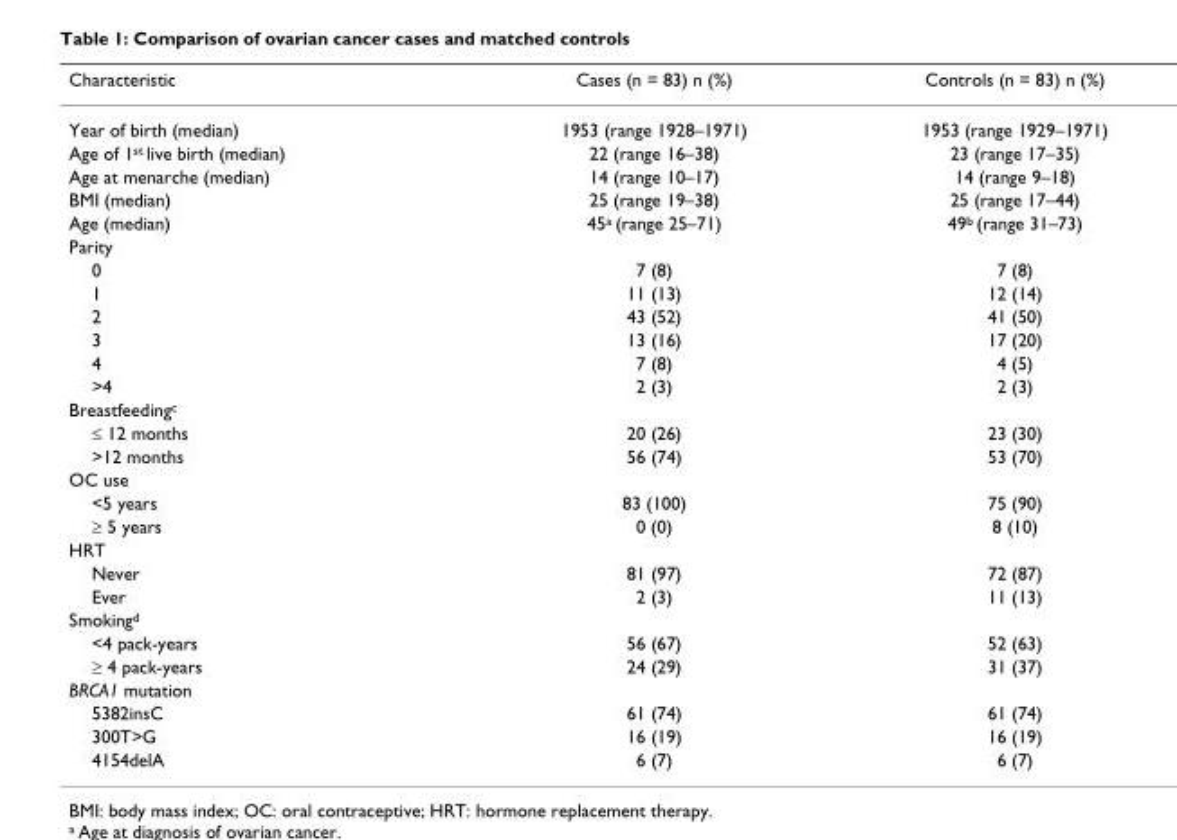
<table><thead><tr><td>Characteristic</td><td>Cases (n = 83) n (%)</td><td>Controls (n = 83) n (%)</td></tr></thead><tbody><tr><td>Year of birth (median)</td><td>1953 (range 1928–1971)</td><td>1953 (range 1929–1971)</td></tr><tr><td>Age of 1<sup>st</sup> live birth (median)</td><td>22 (range 16–38)</td><td>23 (range 17–35)</td></tr><tr><td>Age at menarche (median)</td><td>14 (range 10–17)</td><td>14 (range 9–18)</td></tr><tr><td>BMI (median)</td><td>25 (range 19–38)</td><td>25 (range 17–44)</td></tr><tr><td>Age (median)</td><td>45<sup>a</sup> (range 25–71)</td><td>49<sup>b</sup> (range 31–73)</td></tr><tr><td colspan="3">Parity</td></tr><tr><td>0</td><td>7 (8)</td><td>7 (8)</td></tr><tr><td>1</td><td>11 (13)</td><td>12 (14)</td></tr><tr><td>2</td><td>43 (52)</td><td>41 (50)</td></tr><tr><td>3</td><td>13 (16)</td><td>17 (20)</td></tr><tr><td>4</td><td>7 (8)</td><td>4 (5)</td></tr><tr><td>&gt;4</td><td>2 (3)</td><td>2 (3)</td></tr><tr><td colspan="3">Breastfeeding<sup>c</sup></td></tr><tr><td>≤ 12 months</td><td>20 (26)</td><td>23 (30)</td></tr><tr><td>&gt;12 months</td><td>56 (74)</td><td>53 (70)</td></tr><tr><td colspan="3">OC use</td></tr><tr><td>&lt;5 years</td><td>83 (100)</td><td>75 (90)</td></tr><tr><td>≥ 5 years</td><td>0 (0)</td><td>8 (10)</td></tr><tr><td colspan="3">HRT</td></tr><tr><td>Never</td><td>81 (97)</td><td>72 (87)</td></tr><tr><td>Ever</td><td>2 (3)</td><td>11 (13)</td></tr><tr><td colspan="3">Smoking<sup>d</sup></td></tr><tr><td>&lt;4 pack-years</td><td>56 (67)</td><td>52 (63)</td></tr><tr><td>≥ 4 pack-years</td><td>24 (29)</td><td>31 (37)</td></tr><tr><td colspan="3">BRCA1 mutation</td></tr><tr><td>5382insC</td><td>61 (74)</td><td>61 (74)</td></tr><tr><td>300T&gt;G</td><td>16 (19)</td><td>16 (19)</td></tr><tr><td>4154delA</td><td>6 (7)</td><td>6 (7)</td></tr></tbody></table>